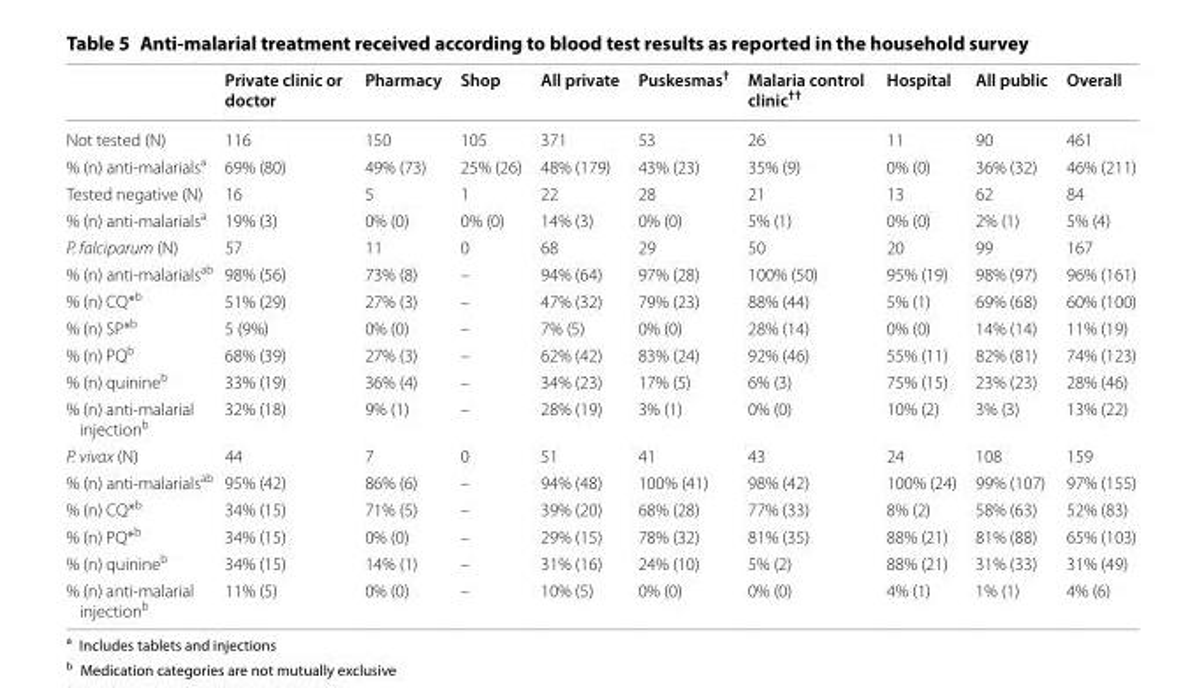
<table><thead><tr><td></td><td>Private clinic or doctor</td><td>Pharmacy</td><td>Shop</td><td>All private</td><td>Puskesmas<sup>†</sup></td><td>Malaria control clinic<sup>††</sup></td><td>Hospital</td><td>All public</td><td>Overall</td></tr></thead><tbody><tr><td>Not tested (N)</td><td>116</td><td>150</td><td>105</td><td>371</td><td>53</td><td>26</td><td>11</td><td>90</td><td>461</td></tr><tr><td>% (n) anti-malarials<sup>a</sup></td><td>69% (80)</td><td>49% (73)</td><td>25% (26)</td><td>48% (179)</td><td>43% (23)</td><td>35% (9)</td><td>0% (0)</td><td>36% (32)</td><td>46% (211)</td></tr><tr><td>Tested negative (N)</td><td>16</td><td>5</td><td>1</td><td>22</td><td>28</td><td>21</td><td>13</td><td>62</td><td>84</td></tr><tr><td>% (n) anti-malarials<sup>a</sup></td><td>19% (3)</td><td>0% (0)</td><td>0% (0)</td><td>14% (3)</td><td>0% (0)</td><td>5% (1)</td><td>0% (0)</td><td>2% (1)</td><td>5% (4)</td></tr><tr><td>P. falciparum (N)</td><td>57</td><td>11</td><td>0</td><td>68</td><td>29</td><td>50</td><td>20</td><td>99</td><td>167</td></tr><tr><td>% (n) anti-malarials<sup>ab</sup></td><td>98% (56)</td><td>73% (8)</td><td>–</td><td>94% (64)</td><td>97% (28)</td><td>100% (50)</td><td>95% (19)</td><td>98% (97)</td><td>96% (161)</td></tr><tr><td>% (n) CQ*<sup>b</sup></td><td>51% (29)</td><td>27% (3)</td><td>–</td><td>47% (32)</td><td>79% (23)</td><td>88% (44)</td><td>5% (1)</td><td>69% (68)</td><td>60% (100)</td></tr><tr><td>% (n) SP*<sup>b</sup></td><td>5 (9%)</td><td>0% (0)</td><td>–</td><td>7% (5)</td><td>0% (0)</td><td>28% (14)</td><td>0% (0)</td><td>14% (14)</td><td>11% (19)</td></tr><tr><td>% (n) PQ<sup>b</sup></td><td>68% (39)</td><td>27% (3)</td><td>–</td><td>62% (42)</td><td>83% (24)</td><td>92% (46)</td><td>55% (11)</td><td>82% (81)</td><td>74% (123)</td></tr><tr><td>% (n) quinine<sup>b</sup></td><td>33% (19)</td><td>36% (4)</td><td>–</td><td>34% (23)</td><td>17% (5)</td><td>6% (3)</td><td>75% (15)</td><td>23% (23)</td><td>28% (46)</td></tr><tr><td>% (n) anti-malarial injection<sup>b</sup></td><td>32% (18)</td><td>9% (1)</td><td>–</td><td>28% (19)</td><td>3% (1)</td><td>0% (0)</td><td>10% (2)</td><td>3% (3)</td><td>13% (22)</td></tr><tr><td>P. vivax (N)</td><td>44</td><td>7</td><td>0</td><td>51</td><td>41</td><td>43</td><td>24</td><td>108</td><td>159</td></tr><tr><td>% (n) anti-malarials<sup>ab</sup></td><td>95% (42)</td><td>86% (6)</td><td>–</td><td>94% (48)</td><td>100% (41)</td><td>98% (42)</td><td>100% (24)</td><td>99% (107)</td><td>97% (155)</td></tr><tr><td>% (n) CQ*<sup>b</sup></td><td>34% (15)</td><td>71% (5)</td><td>–</td><td>39% (20)</td><td>68% (28)</td><td>77% (33)</td><td>8% (2)</td><td>58% (63)</td><td>52% (83)</td></tr><tr><td>% (n) PQ*<sup>b</sup></td><td>34% (15)</td><td>0% (0)</td><td>–</td><td>29% (15)</td><td>78% (32)</td><td>81% (35)</td><td>88% (21)</td><td>81% (88)</td><td>65% (103)</td></tr><tr><td>% (n) quinine<sup>b</sup></td><td>34% (15)</td><td>14% (1)</td><td>–</td><td>31% (16)</td><td>24% (10)</td><td>5% (2)</td><td>88% (21)</td><td>31% (33)</td><td>31% (49)</td></tr><tr><td>% (n) anti-malarial injection<sup>b</sup></td><td>11% (5)</td><td>0% (0)</td><td>–</td><td>10% (5)</td><td>0% (0)</td><td>0% (0)</td><td>4% (1)</td><td>1% (1)</td><td>4% (6)</td></tr></tbody></table>